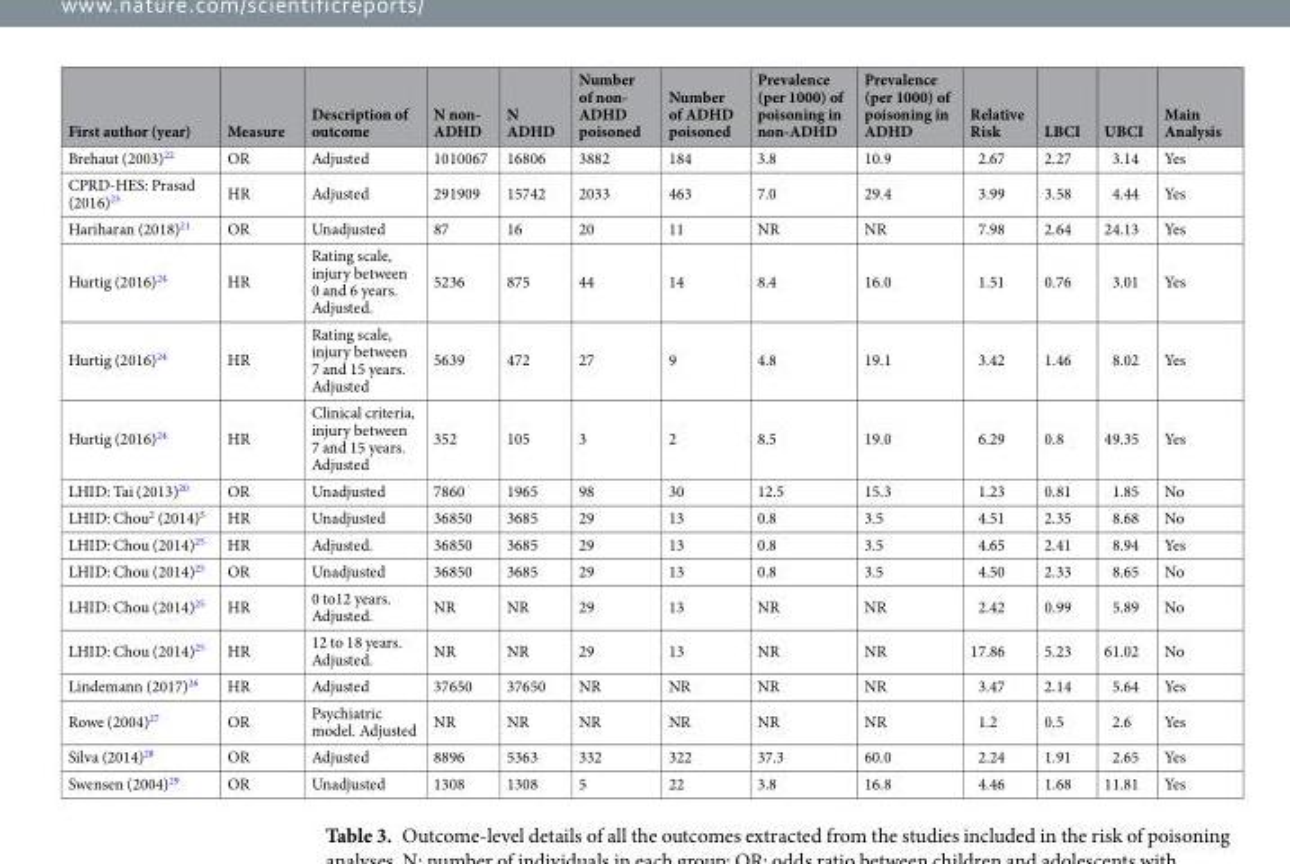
<table><thead><tr><td>First author (year)</td><td>Measure</td><td>Description of outcome</td><td>N non- ADHD</td><td>N ADHD</td><td>Number of non- ADHD poisoned</td><td>Number of ADHD poisoned</td><td>Prevalence (per 1000) of poisoning in non-ADHD</td><td>Prevalence (per 1000) of poisoning in ADHD</td><td>Relative Risk</td><td>LBCI</td><td>UBCI</td><td>Main Analysis</td></tr></thead><tbody><tr><td>Brehaut (2003)<sup>22</sup></td><td>OR</td><td>Adjusted</td><td>1010067</td><td>16806</td><td>3882</td><td>184</td><td>3.8</td><td>10.9</td><td>2.67</td><td>2.27</td><td>3.14</td><td>Yes</td></tr><tr><td>CPRD-HES: Prasad (2016)<sup>23</sup></td><td>HR</td><td>Adjusted</td><td>291909</td><td>15742</td><td>2033</td><td>463</td><td>7.0</td><td>29.4</td><td>3.99</td><td>3.58</td><td>4.44</td><td>Yes</td></tr><tr><td>Hariharan (2018)<sup>21</sup></td><td>OR</td><td>Unadjusted</td><td>87</td><td>16</td><td>20</td><td>11</td><td>NR</td><td>NR</td><td>7.98</td><td>2.64</td><td>24.13</td><td>Yes</td></tr><tr><td>Hurtig (2016)<sup>24</sup></td><td>HR</td><td>Rating scale, injury between 0 and 6 years. Adjusted.</td><td>5236</td><td>875</td><td>44</td><td>14</td><td>8.4</td><td>16.0</td><td>1.51</td><td>0.76</td><td>3.01</td><td>Yes</td></tr><tr><td>Hurtig (2016)<sup>24</sup></td><td>HR</td><td>Rating scale, injury between 7 and 15 years. Adjusted</td><td>5639</td><td>472</td><td>27</td><td>9</td><td>4.8</td><td>19.1</td><td>3.42</td><td>1.46</td><td>8.02</td><td>Yes</td></tr><tr><td>Hurtig (2016)<sup>24</sup></td><td>HR</td><td>Clinical criteria, injury between 7 and 15 years. Adjusted</td><td>352</td><td>105</td><td>3</td><td>2</td><td>8.5</td><td>19.0</td><td>6.29</td><td>0.8</td><td>49.35</td><td>Yes</td></tr><tr><td>LHID: Tai (2013)<sup>20</sup></td><td>OR</td><td>Unadjusted</td><td>7860</td><td>1965</td><td>98</td><td>30</td><td>12.5</td><td>15.3</td><td>1.23</td><td>0.81</td><td>1.85</td><td>No</td></tr><tr><td>LHID: Chou<sup>2</sup> (2014)<sup>5</sup></td><td>HR</td><td>Unadjusted</td><td>36850</td><td>3685</td><td>29</td><td>13</td><td>0.8</td><td>3.5</td><td>4.51</td><td>2.35</td><td>8.68</td><td>No</td></tr><tr><td>LHID: Chou (2014)<sup>25</sup></td><td>HR</td><td>Adjusted.</td><td>36850</td><td>3685</td><td>29</td><td>13</td><td>0.8</td><td>3.5</td><td>4.65</td><td>2.41</td><td>8.94</td><td>Yes</td></tr><tr><td>LHID: Chou (2014)<sup>25</sup></td><td>OR</td><td>Unadjusted</td><td>36850</td><td>3685</td><td>29</td><td>13</td><td>0.8</td><td>3.5</td><td>4.50</td><td>2.33</td><td>8.65</td><td>No</td></tr><tr><td>LHID: Chou (2014)<sup>25</sup></td><td>HR</td><td>0 to12 years. Adjusted.</td><td>NR</td><td>NR</td><td>29</td><td>13</td><td>NR</td><td>NR</td><td>2.42</td><td>0.99</td><td>5.89</td><td>No</td></tr><tr><td>LHID: Chou (2014)<sup>25</sup></td><td>HR</td><td>12 to 18 years. Adjusted.</td><td>NR</td><td>NR</td><td>29</td><td>13</td><td>NR</td><td>NR</td><td>17.86</td><td>5.23</td><td>61.02</td><td>No</td></tr><tr><td>Lindemann (2017)<sup>26</sup></td><td>HR</td><td>Adjusted</td><td>37650</td><td>37650</td><td>NR</td><td>NR</td><td>NR</td><td>NR</td><td>3.47</td><td>2.14</td><td>5.64</td><td>Yes</td></tr><tr><td>Rowe (2004)<sup>27</sup></td><td>OR</td><td>Psychiatric model. Adjusted</td><td>NR</td><td>NR</td><td>NR</td><td>NR</td><td>NR</td><td>NR</td><td>1.2</td><td>0.5</td><td>2.6</td><td>Yes</td></tr><tr><td>Silva (2014)<sup>28</sup></td><td>OR</td><td>Adjusted</td><td>8896</td><td>5363</td><td>332</td><td>322</td><td>37.3</td><td>60.0</td><td>2.24</td><td>1.91</td><td>2.65</td><td>Yes</td></tr><tr><td>Swensen (2004)<sup>29</sup></td><td>OR</td><td>Unadjusted</td><td>1308</td><td>1308</td><td>5</td><td>22</td><td>3.8</td><td>16.8</td><td>4.46</td><td>1.68</td><td>11.81</td><td>Yes</td></tr></tbody></table>